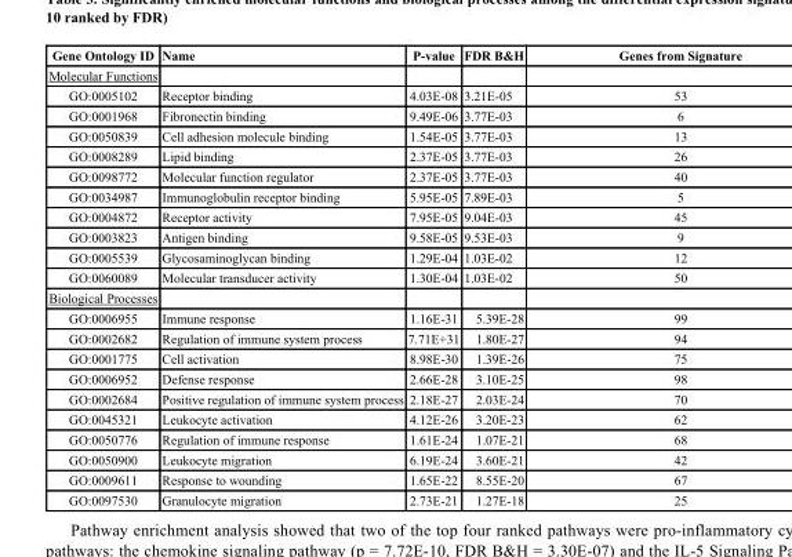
<table><thead><tr><td>Gene Ontology ID</td><td>Name</td><td>P-value</td><td>FDR B&amp;H</td><td>Genes from Signature</td></tr></thead><tbody><tr><td colspan="5">Molecular Functions</td></tr><tr><td>GO:0005102</td><td>Receptor binding</td><td>4.03E-08</td><td>3.21E-05</td><td>53</td></tr><tr><td>GO:0001968</td><td>Fibronectin binding</td><td>9.49E-06</td><td>3.77E-03</td><td>6</td></tr><tr><td>GO:0050839</td><td>Cell adhesion molecule binding</td><td>1.54E-05</td><td>3.77E-03</td><td>13</td></tr><tr><td>GO:0008289</td><td>Lipid binding</td><td>2.37E-05</td><td>3.77E-03</td><td>26</td></tr><tr><td>GO:0098772</td><td>Molecular function regulator</td><td>2.37E-05</td><td>3.77E-03</td><td>40</td></tr><tr><td>GO:0034987</td><td>Immunoglobulin receptor binding</td><td>5.95E-05</td><td>7.89E-03</td><td>5</td></tr><tr><td>GO:0004872</td><td>Receptor activity</td><td>7.95E-05</td><td>9.04E-03</td><td>45</td></tr><tr><td>GO:0003823</td><td>Antigen binding</td><td>9.58E-05</td><td>9.53E-03</td><td>9</td></tr><tr><td>GO:0005539</td><td>Glycosaminoglycan binding</td><td>1.29E-04</td><td>1.03E-02</td><td>12</td></tr><tr><td>GO:0060089</td><td>Molecular transducer activity</td><td>1.30E-04</td><td>1.03E-02</td><td>50</td></tr><tr><td colspan="5">Biological Processes</td></tr><tr><td>GO:0006955</td><td>Immune response</td><td>1.16E-31</td><td>5.39E-28</td><td>99</td></tr><tr><td>GO:0002682</td><td>Regulation of immune system process</td><td>7.71E+31</td><td>1.80E-27</td><td>94</td></tr><tr><td>GO:0001775</td><td>Cell activation</td><td>8.98E-30</td><td>1.39E-26</td><td>75</td></tr><tr><td>GO:0006952</td><td>Defense response</td><td>2.66E-28</td><td>3.10E-25</td><td>98</td></tr><tr><td>GO:0002684</td><td>Positive regulation of immune system process</td><td>2.18E-27</td><td>2.03E-24</td><td>70</td></tr><tr><td>GO:0045321</td><td>Leukocyte activation</td><td>4.12E-26</td><td>3.20E-23</td><td>62</td></tr><tr><td>GO:0050776</td><td>Regulation of immune response</td><td>1.61E-24</td><td>1.07E-21</td><td>68</td></tr><tr><td>GO:0050900</td><td>Leukocyte migration</td><td>6.19E-24</td><td>3.60E-21</td><td>42</td></tr><tr><td>GO:0009611</td><td>Response to wounding</td><td>1.65E-22</td><td>8.55E-20</td><td>67</td></tr><tr><td>GO:0097530</td><td>Granulocyte migration</td><td>2.73E-21</td><td>1.27E-18</td><td>25</td></tr></tbody></table>